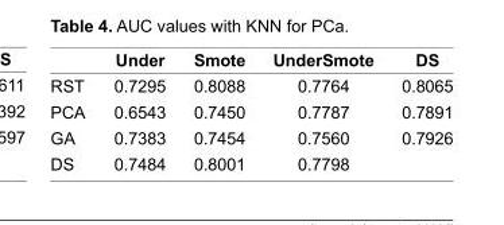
<table><thead><tr><td></td><td>Under</td><td>Smote</td><td>UnderSmote</td><td>DS</td></tr></thead><tbody><tr><td>RST</td><td>0.7295</td><td>0.8088</td><td>0.7764</td><td>0.8065</td></tr><tr><td>PCA</td><td>0.6543</td><td>0.7450</td><td>0.7787</td><td>0.7891</td></tr><tr><td>GA</td><td>0.7383</td><td>0.7454</td><td>0.7560</td><td>0.7926</td></tr><tr><td>DS</td><td>0.7484</td><td>0.8001</td><td>0.7798</td><td></td></tr></tbody></table>